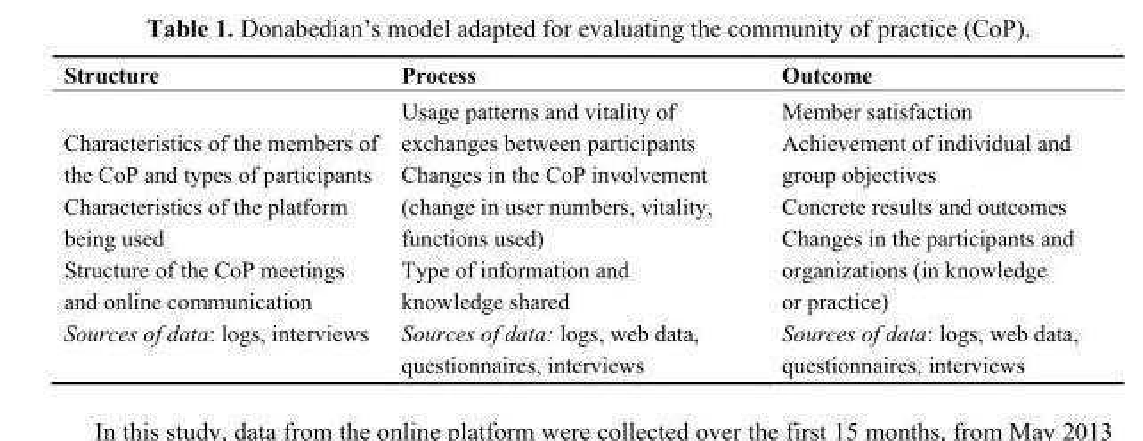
<table><thead><tr><td>Structure</td><td>Process</td><td>Outcome</td></tr></thead><tbody><tr><td>Characteristics of the members of the CoP and types of participants Characteristics of the platform being used Structure of the CoP meetings and online communication Sources of data: logs, interviews</td><td>Usage patterns and vitality of exchanges between participants Changes in the CoP involvement (change in user numbers, vitality, functions used) Type of information and knowledge shared Sources of data: logs, web data, questionnaires, interviews</td><td>Member satisfaction Achievement of individual and group objectives Concrete results and outcomes Changes in the participants and organizations (in knowledge or practice) Sources of data: logs, web data, questionnaires, interviews</td></tr></tbody></table>